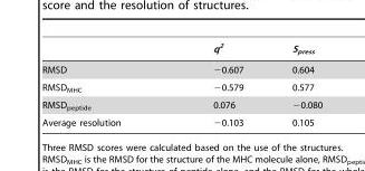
<table><thead><tr><td></td><td>q<sup>2</sup></td><td>S<sub>press</sub></td></tr></thead><tbody><tr><td>RMSD</td><td>−0.607</td><td>0.604</td></tr><tr><td>RMSD<sub>MHC</sub></td><td>−0.579</td><td>0.577</td></tr><tr><td>RMSD<sub>peptide</sub></td><td>0.076</td><td>−0.080</td></tr><tr><td>Average resolution</td><td>−0.103</td><td>0.105</td></tr></tbody></table>